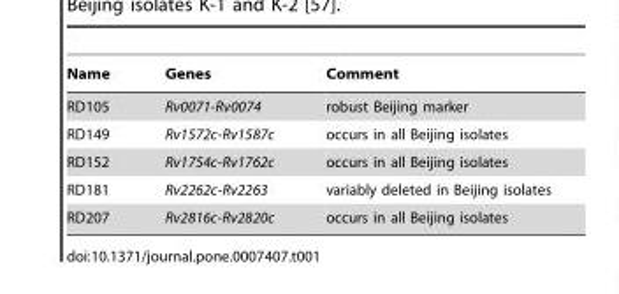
<table><thead><tr><td>Name</td><td>Genes</td><td>Comment</td></tr></thead><tbody><tr><td>RD105</td><td>Rv0071-Rv0074</td><td>robust Beijing marker</td></tr><tr><td>RD149</td><td>Rv1572c-Rv1587c</td><td>occurs in all Beijing isolates</td></tr><tr><td>RD152</td><td>Rv1754c-Rv1762c</td><td>occurs in all Beijing isolates</td></tr><tr><td>RD181</td><td>Rv2262c-Rv2263</td><td>variably deleted in Beijing isolates</td></tr><tr><td>RD207</td><td>Rv2816c-Rv2820c</td><td>occurs in all Beijing isolates</td></tr></tbody></table>